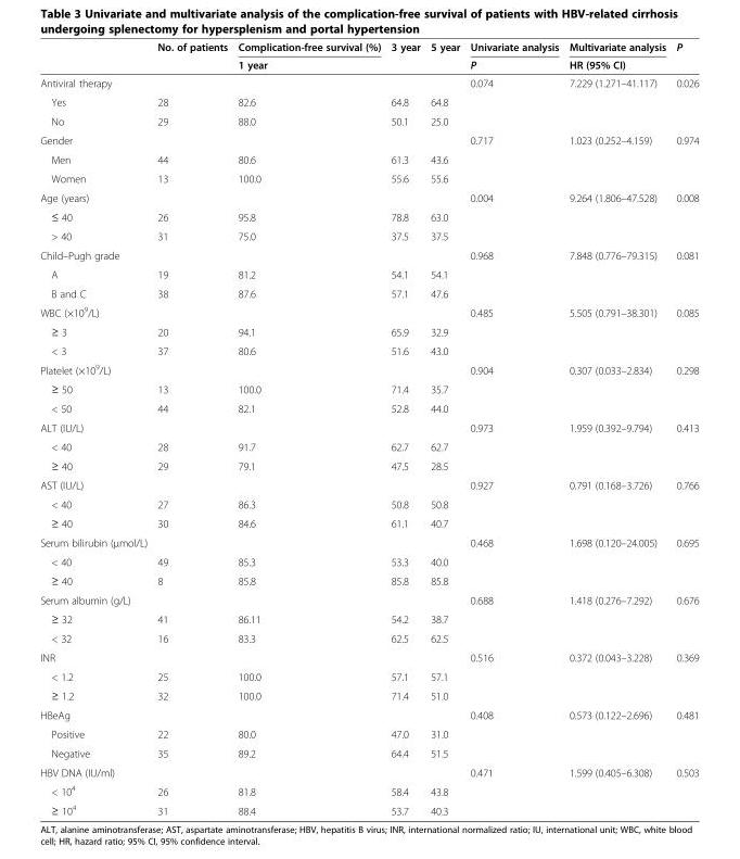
<table><thead><tr><td rowspan="2"></td><td rowspan="2">No. of patients</td><td rowspan="2">Complication-free survival (%) 1 year</td><td rowspan="2">3 year</td><td rowspan="2">5 year</td><td rowspan="2">Univariate analysis P</td><td rowspan="2">Multivariate analysis HR (95% CI)</td><td rowspan="2">P</td></tr><tr></tr></thead><tbody><tr><td>Antiviral therapy</td><td></td><td></td><td></td><td></td><td>0.074</td><td>7.229 (1.271–41.117)</td><td>0.026</td></tr><tr><td>Yes</td><td>28</td><td>82.6</td><td>64.8</td><td>64.8</td><td></td><td></td><td></td></tr><tr><td>No</td><td>29</td><td>88.0</td><td>50.1</td><td>25.0</td><td></td><td></td><td></td></tr><tr><td>Gender</td><td></td><td></td><td></td><td></td><td>0.717</td><td>1.023 (0.252–4.159)</td><td>0.974</td></tr><tr><td>Men</td><td>44</td><td>80.6</td><td>61.3</td><td>43.6</td><td></td><td></td><td></td></tr><tr><td>Women</td><td>13</td><td>100.0</td><td>55.6</td><td>55.6</td><td></td><td></td><td></td></tr><tr><td>Age (years)</td><td></td><td></td><td></td><td></td><td>0.004</td><td>9.264 (1.806–47.528)</td><td>0.008</td></tr><tr><td>≤ 40</td><td>26</td><td>95.8</td><td>78.8</td><td>63.0</td><td></td><td></td><td></td></tr><tr><td>&gt; 40</td><td>31</td><td>75.0</td><td>37.5</td><td>37.5</td><td></td><td></td><td></td></tr><tr><td>Child–Pugh grade</td><td></td><td></td><td></td><td></td><td>0.968</td><td>7.848 (0.776–79.315)</td><td>0.081</td></tr><tr><td>A</td><td>19</td><td>81.2</td><td>54.1</td><td>54.1</td><td></td><td></td><td></td></tr><tr><td>B and C</td><td>38</td><td>87.6</td><td>57.1</td><td>47.6</td><td></td><td></td><td></td></tr><tr><td>WBC (×10<sup>9</sup>/L)</td><td></td><td></td><td></td><td></td><td>0.485</td><td>5.505 (0.791–38.301)</td><td>0.085</td></tr><tr><td>≥ 3</td><td>20</td><td>94.1</td><td>65.9</td><td>32.9</td><td></td><td></td><td></td></tr><tr><td>&lt; 3</td><td>37</td><td>80.6</td><td>51.6</td><td>43.0</td><td></td><td></td><td></td></tr><tr><td>Platelet (×10<sup>9</sup>/L)</td><td></td><td></td><td></td><td></td><td>0.904</td><td>0.307 (0.033–2.834)</td><td>0.298</td></tr><tr><td>≥ 50</td><td>13</td><td>100.0</td><td>71.4</td><td>35.7</td><td></td><td></td><td></td></tr><tr><td>&lt; 50</td><td>44</td><td>82.1</td><td>52.8</td><td>44.0</td><td></td><td></td><td></td></tr><tr><td>ALT (IU/L)</td><td></td><td></td><td></td><td></td><td>0.973</td><td>1.959 (0.392–9.794)</td><td>0.413</td></tr><tr><td>&lt; 40</td><td>28</td><td>91.7</td><td>62.7</td><td>62.7</td><td></td><td></td><td></td></tr><tr><td>≥ 40</td><td>29</td><td>79.1</td><td>47.5</td><td>28.5</td><td></td><td></td><td></td></tr><tr><td>AST (IU/L)</td><td></td><td></td><td></td><td></td><td>0.927</td><td>0.791 (0.168–3.726)</td><td>0.766</td></tr><tr><td>&lt; 40</td><td>27</td><td>86.3</td><td>50.8</td><td>50.8</td><td></td><td></td><td></td></tr><tr><td>≥ 40</td><td>30</td><td>84.6</td><td>61.1</td><td>40.7</td><td></td><td></td><td></td></tr><tr><td>Serum bilirubin (μmol/L)</td><td></td><td></td><td></td><td></td><td>0.468</td><td>1.698 (0.120–24.005)</td><td>0.695</td></tr><tr><td>&lt; 40</td><td>49</td><td>85.3</td><td>53.3</td><td>40.0</td><td></td><td></td><td></td></tr><tr><td>≥ 40</td><td>8</td><td>85.8</td><td>85.8</td><td>85.8</td><td></td><td></td><td></td></tr><tr><td>Serum albumin (g/L)</td><td></td><td></td><td></td><td></td><td>0.688</td><td>1.418 (0.276–7.292)</td><td>0.676</td></tr><tr><td>≥ 32</td><td>41</td><td>86.11</td><td>54.2</td><td>38.7</td><td></td><td></td><td></td></tr><tr><td>&lt; 32</td><td>16</td><td>83.3</td><td>62.5</td><td>62.5</td><td></td><td></td><td></td></tr><tr><td>INR</td><td></td><td></td><td></td><td></td><td>0.516</td><td>0.372 (0.043–3.228)</td><td>0.369</td></tr><tr><td>&lt; 1.2</td><td>25</td><td>100.0</td><td>57.1</td><td>57.1</td><td></td><td></td><td></td></tr><tr><td>≥ 1.2</td><td>32</td><td>100.0</td><td>71.4</td><td>51.0</td><td></td><td></td><td></td></tr><tr><td>HBeAg</td><td></td><td></td><td></td><td></td><td>0.408</td><td>0.573 (0.122–2.696)</td><td>0.481</td></tr><tr><td>Positive</td><td>22</td><td>80.0</td><td>47.0</td><td>31.0</td><td></td><td></td><td></td></tr><tr><td>Negative</td><td>35</td><td>89.2</td><td>64.4</td><td>51.5</td><td></td><td></td><td></td></tr><tr><td>HBV DNA (IU/ml)</td><td></td><td></td><td></td><td></td><td>0.471</td><td>1.599 (0.405–6.308)</td><td>0.503</td></tr><tr><td>&lt; 10<sup>4</sup></td><td>26</td><td>81.8</td><td>58.4</td><td>43.8</td><td></td><td></td><td></td></tr><tr><td>≥ 10<sup>4</sup></td><td>31</td><td>88.4</td><td>53.7</td><td>40.3</td><td></td><td></td><td></td></tr></tbody></table>